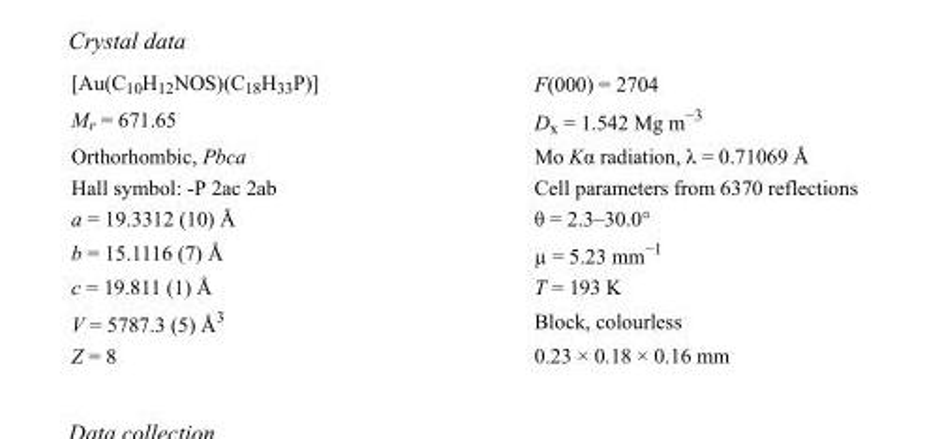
<table><tbody><tr><td>[Au(C<sub>10</sub>H<sub>12</sub>NOS)(C<sub>18</sub>H<sub>33</sub>P)]</td><td>F(000) = 2704</td></tr><tr><td>M<sub>r</sub> = 671.65</td><td>D<sub>x</sub> = 1.542 Mg m<sup>−3</sup></td></tr><tr><td>Orthorhombic, Pbca</td><td>Mo Kα radiation, λ = 0.71069 Å</td></tr><tr><td>Hall symbol: -P 2ac 2ab</td><td>Cell parameters from 6370 reflections</td></tr><tr><td>a = 19.3312 (10) Å</td><td>θ = 2.3–30.0°</td></tr><tr><td>b = 15.1116 (7) Å</td><td>µ = 5.23 mm<sup>−1</sup></td></tr><tr><td>c = 19.811 (1) Å</td><td>T = 193 K</td></tr><tr><td>V = 5787.3 (5) Å<sup>3</sup></td><td>Block, colourless</td></tr><tr><td>Z = 8</td><td>0.23 × 0.18 × 0.16 mm</td></tr></tbody></table>